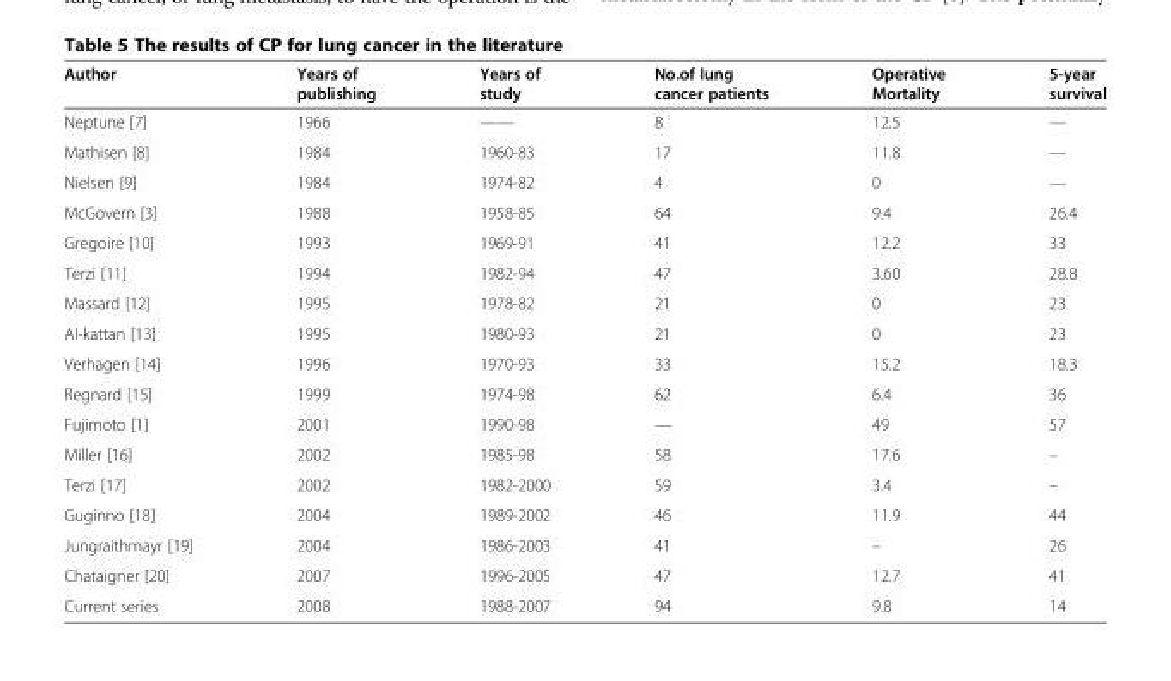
<table><thead><tr><td>Author</td><td>Years of publishing</td><td>Years of study</td><td>No.of lung cancer patients</td><td>Operative Mortality</td><td>5-year survival</td></tr></thead><tbody><tr><td>Neptune [7]</td><td>1966</td><td>——</td><td>8</td><td>12.5</td><td>—</td></tr><tr><td>Mathisen [8]</td><td>1984</td><td>1960-83</td><td>17</td><td>11.8</td><td>—</td></tr><tr><td>Nielsen [9]</td><td>1984</td><td>1974-82</td><td>4</td><td>0</td><td>—</td></tr><tr><td>McGovern [3]</td><td>1988</td><td>1958-85</td><td>64</td><td>9.4</td><td>26.4</td></tr><tr><td>Gregoire [10]</td><td>1993</td><td>1969-91</td><td>41</td><td>12.2</td><td>33</td></tr><tr><td>Terzi [11]</td><td>1994</td><td>1982-94</td><td>47</td><td>3.60</td><td>28.8</td></tr><tr><td>Massard [12]</td><td>1995</td><td>1978-82</td><td>21</td><td>0</td><td>23</td></tr><tr><td>AI-kattan [13]</td><td>1995</td><td>1980-93</td><td>21</td><td>0</td><td>23</td></tr><tr><td>Verhagen [14]</td><td>1996</td><td>1970-93</td><td>33</td><td>15.2</td><td>18.3</td></tr><tr><td>Regnard [15]</td><td>1999</td><td>1974-98</td><td>62</td><td>6.4</td><td>36</td></tr><tr><td>Fujimoto [1]</td><td>2001</td><td>1990-98</td><td>—</td><td>49</td><td>57</td></tr><tr><td>Miller [16]</td><td>2002</td><td>1985-98</td><td>58</td><td>17.6</td><td>–</td></tr><tr><td>Terzi [17]</td><td>2002</td><td>1982-2000</td><td>59</td><td>3.4</td><td>–</td></tr><tr><td>Guginno [18]</td><td>2004</td><td>1989-2002</td><td>46</td><td>11.9</td><td>44</td></tr><tr><td>Jungraithmayr [19]</td><td>2004</td><td>1986-2003</td><td>41</td><td>–</td><td>26</td></tr><tr><td>Chataigner [20]</td><td>2007</td><td>1996-2005</td><td>47</td><td>12.7</td><td>41</td></tr><tr><td>Current series</td><td>2008</td><td>1988-2007</td><td>94</td><td>9.8</td><td>14</td></tr></tbody></table>